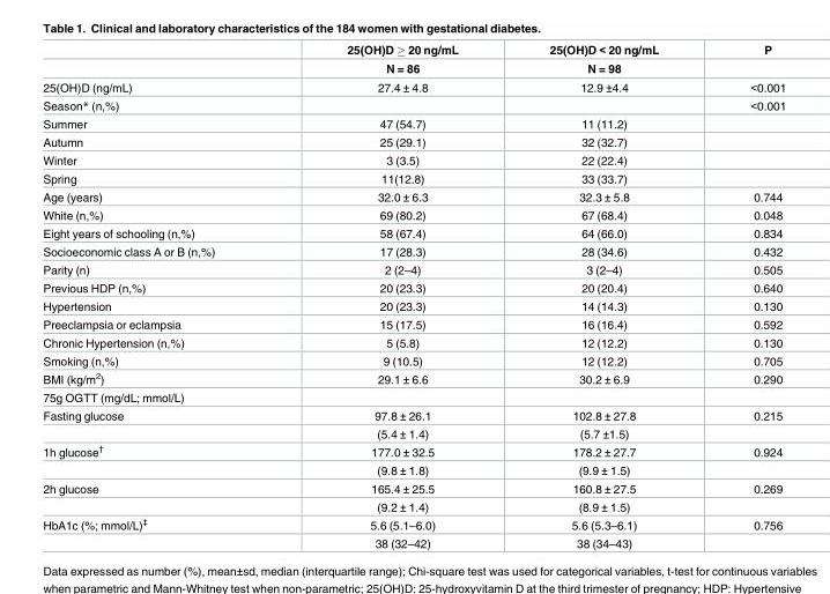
<table><thead><tr><td rowspan="2"></td><td rowspan="2">25(OH)D ≥ 20 ng/mL N = 86</td><td rowspan="2">25(OH)D &lt; 20 ng/mL N = 98</td><td rowspan="2">P</td></tr><tr></tr></thead><tbody><tr><td>25(OH)D (ng/mL)</td><td>27.4 ± 4.8</td><td>12.9 ±4.4</td><td>&lt;0.001</td></tr><tr><td>Season* (n,%)</td><td></td><td></td><td>&lt;0.001</td></tr><tr><td>Summer</td><td>47 (54.7)</td><td>11 (11.2)</td><td></td></tr><tr><td>Autumn</td><td>25 (29.1)</td><td>32 (32.7)</td><td></td></tr><tr><td>Winter</td><td>3 (3.5)</td><td>22 (22.4)</td><td></td></tr><tr><td>Spring</td><td>11(12.8)</td><td>33 (33.7)</td><td></td></tr><tr><td>Age (years)</td><td>32.0 ± 6.3</td><td>32.3 ± 5.8</td><td>0.744</td></tr><tr><td>White (n,%)</td><td>69 (80.2)</td><td>67 (68.4)</td><td>0.048</td></tr><tr><td>Eight years of schooling (n,%)</td><td>58 (67.4)</td><td>64 (66.0)</td><td>0.834</td></tr><tr><td>Socioeconomic class A or B (n,%)</td><td>17 (28.3)</td><td>28 (34.6)</td><td>0.432</td></tr><tr><td>Parity (n)</td><td>2 (2–4)</td><td>3 (2–4)</td><td>0.505</td></tr><tr><td>Previous HDP (n,%)</td><td>20 (23.3)</td><td>20 (20.4)</td><td>0.640</td></tr><tr><td>Hypertension</td><td>20 (23.3)</td><td>14 (14.3)</td><td>0.130</td></tr><tr><td>Preeclampsia or eclampsia</td><td>15 (17.5)</td><td>16 (16.4)</td><td>0.592</td></tr><tr><td>Chronic Hypertension (n,%)</td><td>5 (5.8)</td><td>12 (12.2)</td><td>0.130</td></tr><tr><td>Smoking (n,%)</td><td>9 (10.5)</td><td>12 (12.2)</td><td>0.705</td></tr><tr><td>BMI (kg/m<sup>2</sup>)</td><td>29.1 ± 6.6</td><td>30.2 ± 6.9</td><td>0.290</td></tr><tr><td colspan="4">75g OGTT (mg/dL; mmol/L)</td></tr><tr><td rowspan="2">Fasting glucose</td><td>97.8 ± 26.1</td><td>102.8 ± 27.8</td><td>0.215</td></tr><tr><td>(5.4 ± 1.4)</td><td>(5.7 ±1.5)</td><td></td></tr><tr><td rowspan="2">1h glucose<sup>†</sup></td><td>177.0 ± 32.5</td><td>178.2 ± 27.7</td><td>0.924</td></tr><tr><td>(9.8 ± 1.8)</td><td>(9.9 ± 1.5)</td><td></td></tr><tr><td rowspan="2">2h glucose</td><td>165.4 ± 25.5</td><td>160.8 ± 27.5</td><td>0.269</td></tr><tr><td>(9.2 ± 1.4)</td><td>(8.9 ± 1.5)</td><td></td></tr><tr><td rowspan="2">HbA1c (%; mmol/L)<sup>‡</sup></td><td>5.6 (5.1–6.0)</td><td>5.6 (5.3–6.1)</td><td>0.756</td></tr><tr><td>38 (32–42)</td><td>38 (34–43)</td><td></td></tr></tbody></table>